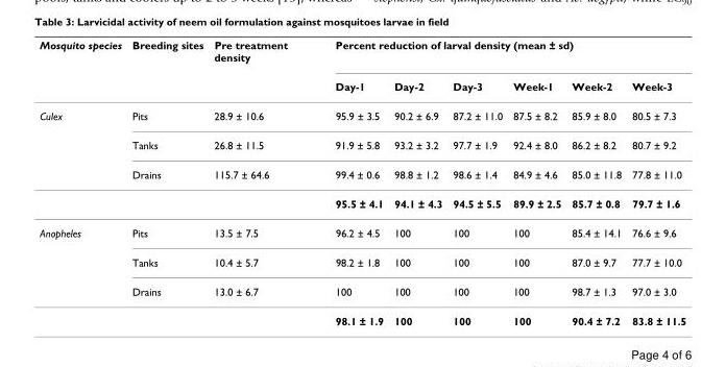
<table><thead><tr><td rowspan="2">Mosquito species</td><td rowspan="2">Breeding sites</td><td rowspan="2">Pre treatment density</td><td colspan="6">Percent reduction of larval density (mean ± sd)</td></tr><tr><td>Day-1</td><td>Day-2</td><td>Day-3</td><td>Week-1</td><td>Week-2</td><td>Week-3</td></tr></thead><tbody><tr><td rowspan="4">Culex</td><td>Pits</td><td>28.9 ± 10.6</td><td>95.9 ± 3.5</td><td>90.2 ± 6.9</td><td>87.2 ± 11.0</td><td>87.5 ± 8.2</td><td>85.9 ± 8.0</td><td>80.5 ± 7.3</td></tr><tr><td>Tanks</td><td>26.8 ± 11.5</td><td>91.9 ± 5.8</td><td>93.2 ± 3.2</td><td>97.7 ± 1.9</td><td>92.4 ± 8.0</td><td>86.2 ± 8.2</td><td>80.7 ± 9.2</td></tr><tr><td>Drains</td><td>115.7 ± 64.6</td><td>99.4 ± 0.6</td><td>98.8 ± 1.2</td><td>98.6 ± 1.4</td><td>84.9 ± 4.6</td><td>85.0 ± 11.8</td><td>77.8 ± 11.0</td></tr><tr><td></td><td></td><td>95.5 ± 4.1</td><td>94.1 ± 4.3</td><td>94.5 ± 5.5</td><td>89.9 ± 2.5</td><td>85.7 ± 0.8</td><td>79.7 ± 1.6</td></tr><tr><td rowspan="4">Anopheles</td><td>Pits</td><td>13.5 ± 7.5</td><td>96.2 ± 4.5</td><td>100</td><td>100</td><td>100</td><td>85.4 ± 14.1</td><td>76.6 ± 9.6</td></tr><tr><td>Tanks</td><td>10.4 ± 5.7</td><td>98.2 ± 1.8</td><td>100</td><td>100</td><td>100</td><td>87.0 ± 9.7</td><td>77.7 ± 10.0</td></tr><tr><td>Drains</td><td>13.0 ± 6.7</td><td>100</td><td>100</td><td>100</td><td>100</td><td>98.7 ± 1.3</td><td>97.0 ± 3.0</td></tr><tr><td></td><td></td><td>98.1 ± 1.9</td><td>100</td><td>100</td><td>100</td><td>90.4 ± 7.2</td><td>83.8 ± 11.5</td></tr></tbody></table>